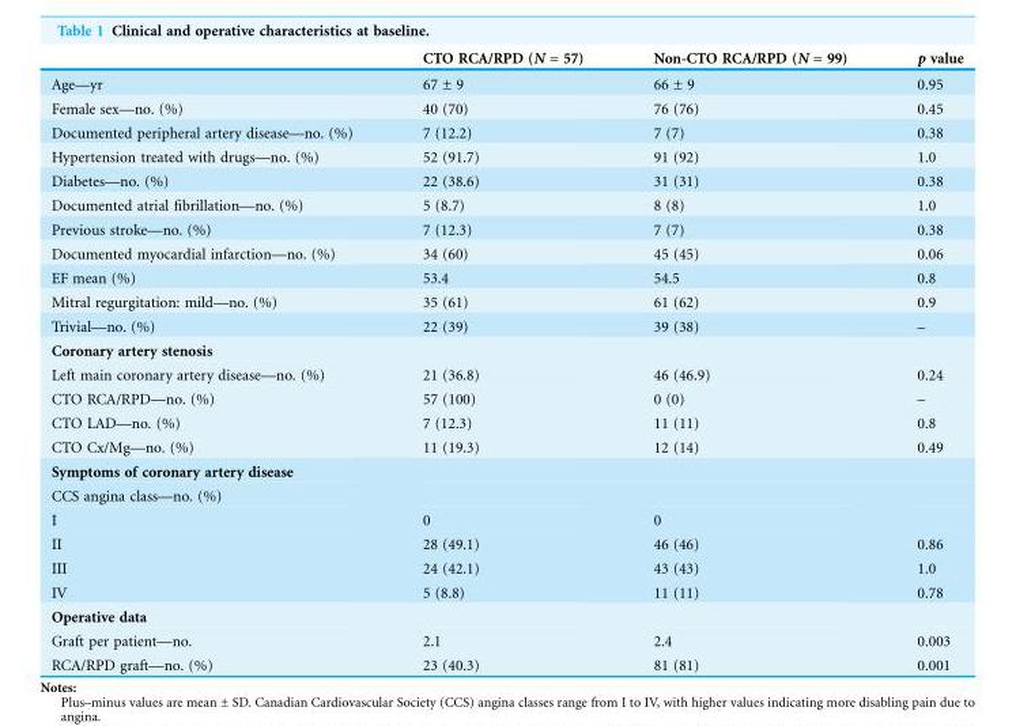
<table><thead><tr><td></td><td>CTO RCA/RPD (N = 57)</td><td>Non-CTO RCA/RPD (N = 99)</td><td>p value</td></tr></thead><tbody><tr><td>Age—yr</td><td>67 ± 9</td><td>66 ± 9</td><td>0.95</td></tr><tr><td>Female sex—no. (%)</td><td>40 (70)</td><td>76 (76)</td><td>0.45</td></tr><tr><td>Documented peripheral artery disease—no. (%)</td><td>7 (12.2)</td><td>7 (7)</td><td>0.38</td></tr><tr><td>Hypertension treated with drugs—no. (%)</td><td>52 (91.7)</td><td>91 (92)</td><td>1.0</td></tr><tr><td>Diabetes—no. (%)</td><td>22 (38.6)</td><td>31 (31)</td><td>0.38</td></tr><tr><td>Documented atrial fibrillation—no. (%)</td><td>5 (8.7)</td><td>8 (8)</td><td>1.0</td></tr><tr><td>Previous stroke—no. (%)</td><td>7 (12.3)</td><td>7 (7)</td><td>0.38</td></tr><tr><td>Documented myocardial infarction—no. (%)</td><td>34 (60)</td><td>45 (45)</td><td>0.06</td></tr><tr><td>EF mean (%)</td><td>53.4</td><td>54.5</td><td>0.8</td></tr><tr><td>Mitral regurgitation: mild—no. (%)</td><td>35 (61)</td><td>61 (62)</td><td>0.9</td></tr><tr><td>Trivial—no. (%)</td><td>22 (39)</td><td>39 (38)</td><td>–</td></tr><tr><td colspan="4">Coronary artery stenosis</td></tr><tr><td>Left main coronary artery disease—no. (%)</td><td>21 (36.8)</td><td>46 (46.9)</td><td>0.24</td></tr><tr><td>CTO RCA/RPD—no. (%)</td><td>57 (100)</td><td>0 (0)</td><td>–</td></tr><tr><td>CTO LAD—no. (%)</td><td>7 (12.3)</td><td>11 (11)</td><td>0.8</td></tr><tr><td>CTO Cx/Mg—no. (%)</td><td>11 (19.3)</td><td>12 (14)</td><td>0.49</td></tr><tr><td colspan="4">Symptoms of coronary artery disease</td></tr><tr><td colspan="4">CCS angina class—no. (%)</td></tr><tr><td>I</td><td>0</td><td>0</td><td></td></tr><tr><td>II</td><td>28 (49.1)</td><td>46 (46)</td><td>0.86</td></tr><tr><td>III</td><td>24 (42.1)</td><td>43 (43)</td><td>1.0</td></tr><tr><td>IV</td><td>5 (8.8)</td><td>11 (11)</td><td>0.78</td></tr><tr><td colspan="4">Operative data</td></tr><tr><td>Graft per patient—no.</td><td>2.1</td><td>2.4</td><td>0.003</td></tr><tr><td>RCA/RPD graft—no. (%)</td><td>23 (40.3)</td><td>81 (81)</td><td>0.001</td></tr></tbody></table>